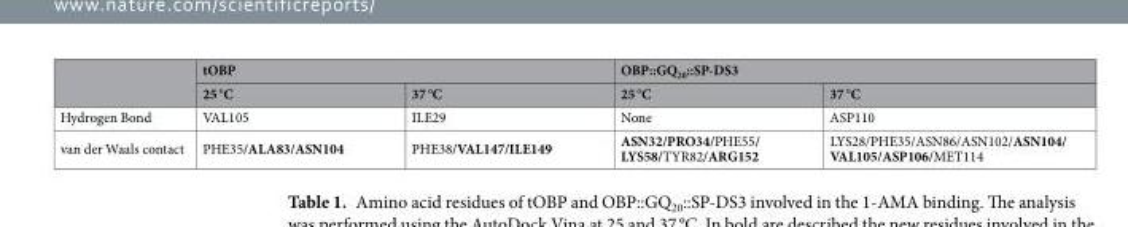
<table><thead><tr><td rowspan="2"></td><td colspan="2">tOBP</td><td colspan="2">OBP::GQ<sub>20</sub>::SP-DS3</td></tr><tr><td>25 °C</td><td>37 °C</td><td>25 °C</td><td>37 °C</td></tr></thead><tbody><tr><td>Hydrogen Bond</td><td>VAL105</td><td>ILE29</td><td>None</td><td>ASP110</td></tr><tr><td>van der Waals contact</td><td>PHE35/ALA83/ASN104</td><td>PHE38/VAL147/ILE149</td><td>ASN32/PRO34/PHE55/ LYS58/TYR82/ARG152</td><td>LYS28/PHE35/ASN86/ASN102/ASN104/ VAL105/ASP106/MET114</td></tr></tbody></table>